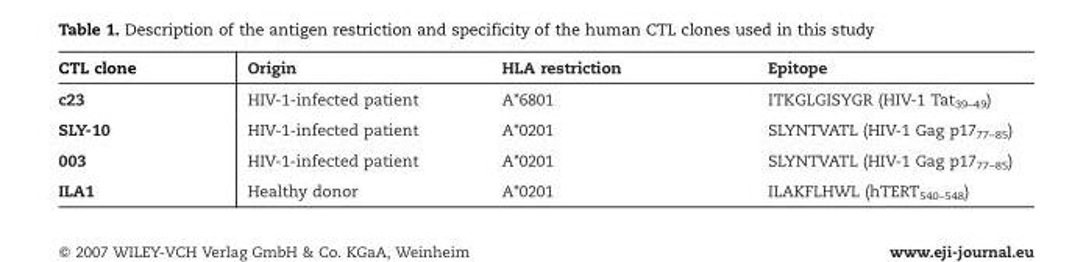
<table><thead><tr><td>CTL clone</td><td>Origin</td><td>HLA restriction</td><td>Epitope</td></tr></thead><tbody><tr><td>c23</td><td>HIV-1-infected patient</td><td>A*6801</td><td>ITKGLGISYGR (HIV-1 Tat<sub>39–49</sub>)</td></tr><tr><td>SLY-10</td><td>HIV-1-infected patient</td><td>A*0201</td><td>SLYNTVATL (HIV-1 Gag p1777–85)</td></tr><tr><td>003</td><td>HIV-1-infected patient</td><td>A*0201</td><td>SLYNTVATL (HIV-1 Gag p1777–85)</td></tr><tr><td>ILA1</td><td>Healthy donor</td><td>A*0201</td><td>ILAKFLHWL (hTERT<sub>540–548</sub>)</td></tr></tbody></table>